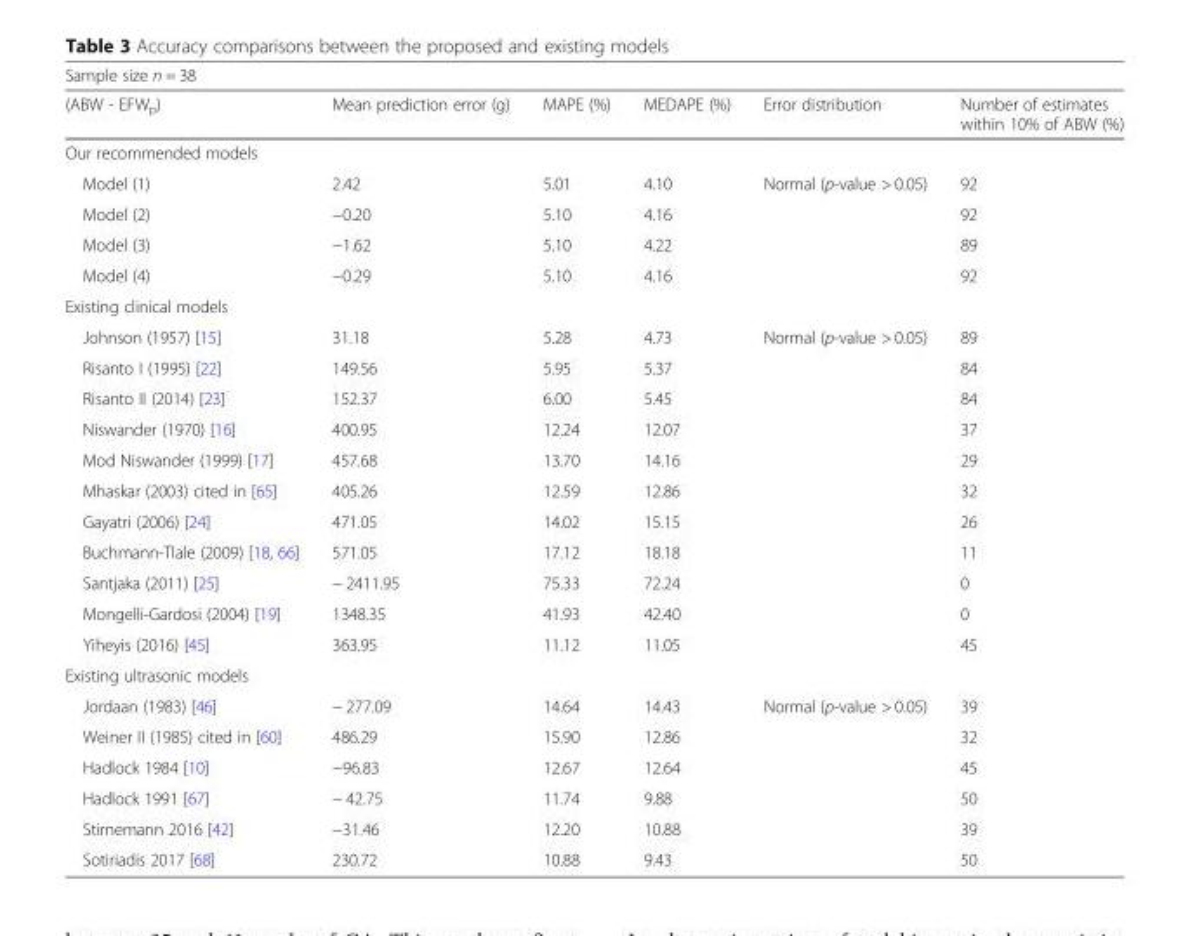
<table><thead><tr><td colspan="6">Sample size n = 38</td></tr><tr><td>(ABW - EFW<sub>p</sub>)</td><td>Mean prediction error (g)</td><td>MAPE (%)</td><td>MEDAPE (%)</td><td>Error distribution</td><td>Number of estimates within 10% of ABW (%)</td></tr></thead><tbody><tr><td colspan="6">Our recommended models</td></tr><tr><td>Model (1)</td><td>2.42</td><td>5.01</td><td>4.10</td><td rowspan="4">Normal (p-value &gt; 0.05)</td><td>92</td></tr><tr><td>Model (2)</td><td>−0.20</td><td>5.10</td><td>4.16</td><td>92</td></tr><tr><td>Model (3)</td><td>−1.62</td><td>5.10</td><td>4.22</td><td>89</td></tr><tr><td>Model (4)</td><td>−0.29</td><td>5.10</td><td>4.16</td><td>92</td></tr><tr><td colspan="6">Existing clinical models</td></tr><tr><td>Johnson (1957) [15]</td><td>31.18</td><td>5.28</td><td>4.73</td><td rowspan="11">Normal (p-value &gt; 0.05)</td><td>89</td></tr><tr><td>Risanto I (1995) [22]</td><td>149.56</td><td>5.95</td><td>5.37</td><td>84</td></tr><tr><td>Risanto II (2014) [23]</td><td>152.37</td><td>6.00</td><td>5.45</td><td>84</td></tr><tr><td>Niswander (1970) [16]</td><td>400.95</td><td>12.24</td><td>12.07</td><td>37</td></tr><tr><td>Mod Niswander (1999) [17]</td><td>457.68</td><td>13.70</td><td>14.16</td><td>29</td></tr><tr><td>Mhaskar (2003) cited in [65]</td><td>405.26</td><td>12.59</td><td>12.86</td><td>32</td></tr><tr><td>Gayatri (2006) [24]</td><td>471.05</td><td>14.02</td><td>15.15</td><td>26</td></tr><tr><td>Buchmann-Tlale (2009) [18, 66]</td><td>571.05</td><td>17.12</td><td>18.18</td><td>11</td></tr><tr><td>Santjaka (2011) [25]</td><td>− 2411.95</td><td>75.33</td><td>72.24</td><td>0</td></tr><tr><td>Mongelli-Gardosi (2004) [19]</td><td>1348.35</td><td>41.93</td><td>42.40</td><td>0</td></tr><tr><td>Yiheyis (2016) [45]</td><td>363.95</td><td>11.12</td><td>11.05</td><td>45</td></tr><tr><td colspan="6">Existing ultrasonic models</td></tr><tr><td>Jordaan (1983) [46]</td><td>− 277.09</td><td>14.64</td><td>14.43</td><td rowspan="6">Normal (p-value &gt; 0.05)</td><td>39</td></tr><tr><td>Weiner II (1985) cited in [60]</td><td>486.29</td><td>15.90</td><td>12.86</td><td>32</td></tr><tr><td>Hadlock 1984 [10]</td><td>−96.83</td><td>12.67</td><td>12.64</td><td>45</td></tr><tr><td>Hadlock 1991 [67]</td><td>− 42.75</td><td>11.74</td><td>9.88</td><td>50</td></tr><tr><td>Stirnemann 2016 [42]</td><td>−31.46</td><td>12.20</td><td>10.88</td><td>39</td></tr><tr><td>Sotiriadis 2017 [68]</td><td>230.72</td><td>10.88</td><td>9.43</td><td>50</td></tr></tbody></table>